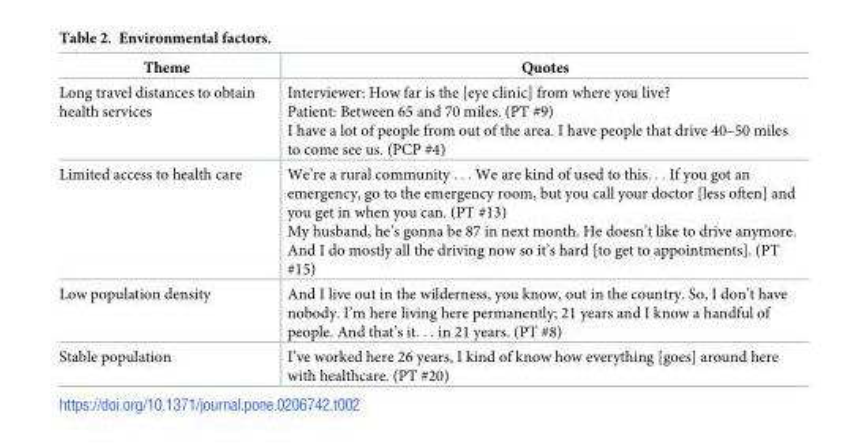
<table><thead><tr><td>Theme</td><td>Quotes</td></tr></thead><tbody><tr><td>Long travel distances to obtain health services</td><td>Interviewer: How far is the [eye clinic] from where you live? Patient: Between 65 and 70 miles. (PT #9) I have a lot of people from out of the area. I have people that drive 40–50 miles to come see us. (PCP #4)</td></tr><tr><td>Limited access to health care</td><td>We’re a rural community . . . We are kind of used to this. . . If you got an emergency, go to the emergency room, but you call your doctor [less often] and you get in when you can. (PT #13) My husband, he’s gonna be 87 in next month. He doesn’t like to drive anymore. And I do mostly all the driving now so it’s hard [to get to appointments]. (PT #15)</td></tr><tr><td>Low population density</td><td>And I live out in the wilderness, you know, out in the country. So, I don’t have nobody. I’m here living here permanently; 21 years and I know a handful of people. And that’s it. . . in 21 years. (PT #8)</td></tr><tr><td>Stable population</td><td>I’ve worked here 26 years, I kind of know how everything [goes] around here with healthcare. (PT #20)</td></tr></tbody></table>